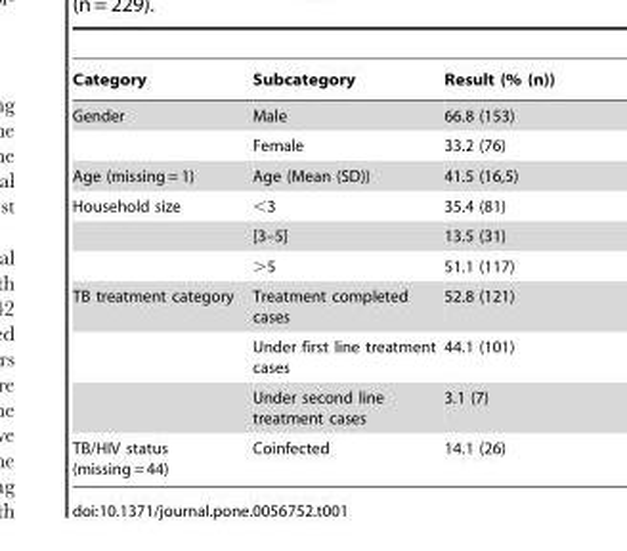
<table><thead><tr><td>Category</td><td>Subcategory</td><td>Result (% (n))</td></tr></thead><tbody><tr><td rowspan="2">Gender</td><td>Male</td><td>66.8 (153)</td></tr><tr><td>Female</td><td>33.2 (76)</td></tr><tr><td>Age (missing = 1)</td><td>Age (Mean (SD))</td><td>41.5 (16,5)</td></tr><tr><td rowspan="3">Household size</td><td>&lt;3</td><td>35.4 (81)</td></tr><tr><td>[3–5]</td><td>13.5 (31)</td></tr><tr><td>&gt;5</td><td>51.1 (117)</td></tr><tr><td rowspan="3">TB treatment category</td><td>Treatment completed cases</td><td>52.8 (121)</td></tr><tr><td>Under first line treatment cases</td><td>44.1 (101)</td></tr><tr><td>Under second line treatment cases</td><td>3.1 (7)</td></tr><tr><td>TB/HIV status (missing = 44)</td><td>Coinfected</td><td>14.1 (26)</td></tr></tbody></table>